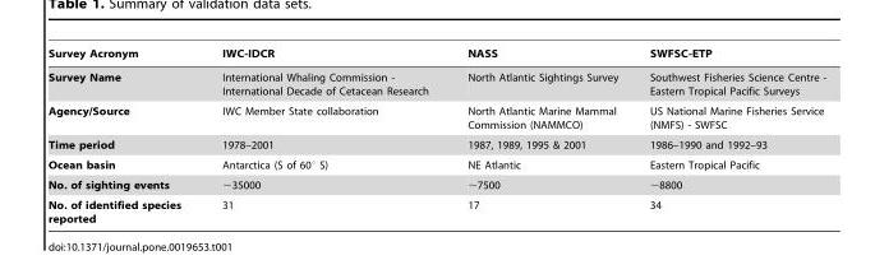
<table><thead><tr><td>Survey Acronym</td><td>IWC-IDCR</td><td>NASS</td><td>SWFSC-ETP</td></tr></thead><tbody><tr><td>Survey Name</td><td>International Whaling Commission - International Decade of Cetacean Research</td><td>North Atlantic Sightings Survey</td><td>Southwest Fisheries Science Centre - Eastern Tropical Pacific Surveys</td></tr><tr><td>Agency/Source</td><td>IWC Member State collaboration</td><td>North Atlantic Marine Mammal Commission (NAMMCO)</td><td>US National Marine Fisheries Service (NMFS) - SWFSC</td></tr><tr><td>Time period</td><td>1978–2001</td><td>1987, 1989, 1995 &amp; 2001</td><td>1986–1990 and 1992–93</td></tr><tr><td>Ocean basin</td><td>Antarctica (S of 60° S)</td><td>NE Atlantic</td><td>Eastern Tropical Pacific</td></tr><tr><td>No. of sighting events</td><td>∼35000</td><td>∼7500</td><td>∼8800</td></tr><tr><td>No. of identified species reported</td><td>31</td><td>17</td><td>34</td></tr></tbody></table>